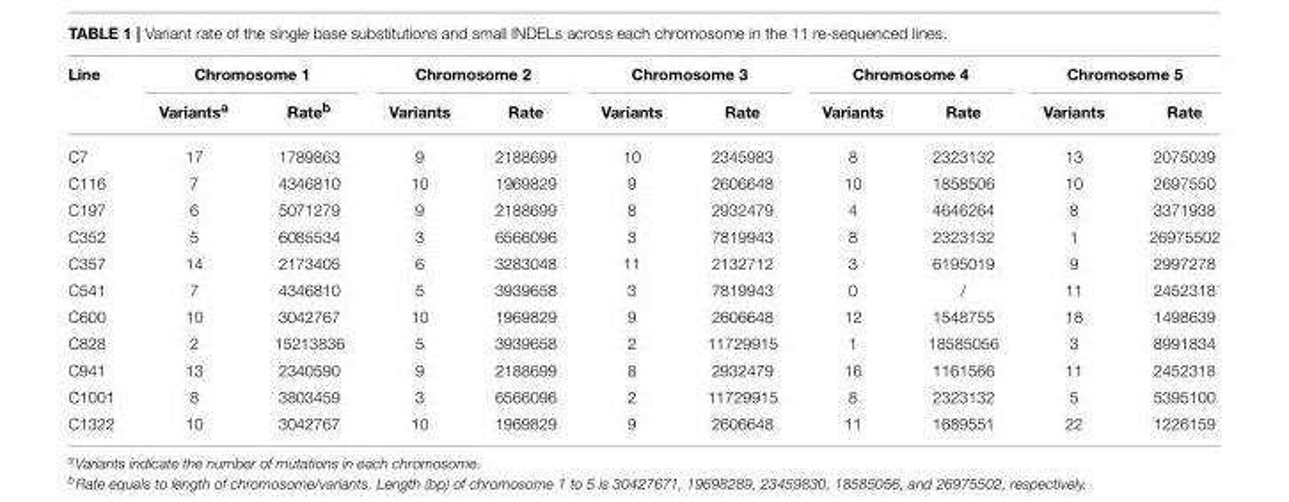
<table><thead><tr><td rowspan="2">Line</td><td colspan="2">Chromosome 1</td><td colspan="2">Chromosome 2</td><td colspan="2">Chromosome 3</td><td colspan="2">Chromosome 4</td><td colspan="2">Chromosome 5</td></tr><tr><td>Variants<sup>a</sup></td><td>Rate<sup>b</sup></td><td>Variants</td><td>Rate</td><td>Variants</td><td>Rate</td><td>Variants</td><td>Rate</td><td>Variants</td><td>Rate</td></tr></thead><tbody><tr><td>C7</td><td>17</td><td>1789863</td><td>9</td><td>2188699</td><td>10</td><td>2345983</td><td>8</td><td>2323132</td><td>13</td><td>2075039</td></tr><tr><td>C116</td><td>7</td><td>4346810</td><td>10</td><td>1969829</td><td>9</td><td>2606648</td><td>10</td><td>1858506</td><td>10</td><td>2697550</td></tr><tr><td>C197</td><td>6</td><td>5071279</td><td>9</td><td>2188699</td><td>8</td><td>2932479</td><td>4</td><td>4646264</td><td>8</td><td>3371938</td></tr><tr><td>C352</td><td>5</td><td>6085534</td><td>3</td><td>6566096</td><td>3</td><td>7819943</td><td>8</td><td>2323132</td><td>1</td><td>26975502</td></tr><tr><td>C357</td><td>14</td><td>2173405</td><td>6</td><td>3283048</td><td>11</td><td>2132712</td><td>3</td><td>6195019</td><td>9</td><td>2997278</td></tr><tr><td>C541</td><td>7</td><td>4346810</td><td>5</td><td>3939658</td><td>3</td><td>7819943</td><td>0</td><td>/</td><td>11</td><td>2452318</td></tr><tr><td>C600</td><td>10</td><td>3042767</td><td>10</td><td>1969829</td><td>9</td><td>2606648</td><td>12</td><td>1548755</td><td>18</td><td>1498639</td></tr><tr><td>C828</td><td>2</td><td>15213836</td><td>5</td><td>3939658</td><td>2</td><td>11729915</td><td>1</td><td>18585056</td><td>3</td><td>8991834</td></tr><tr><td>C941</td><td>13</td><td>2340590</td><td>9</td><td>2188699</td><td>8</td><td>2932479</td><td>16</td><td>1161566</td><td>11</td><td>2452318</td></tr><tr><td>C1001</td><td>8</td><td>3803459</td><td>3</td><td>6566096</td><td>2</td><td>11729915</td><td>8</td><td>2323132</td><td>5</td><td>5395100</td></tr><tr><td>C1322</td><td>10</td><td>3042767</td><td>10</td><td>1969829</td><td>9</td><td>2606648</td><td>11</td><td>1689551</td><td>22</td><td>1226159</td></tr></tbody></table>